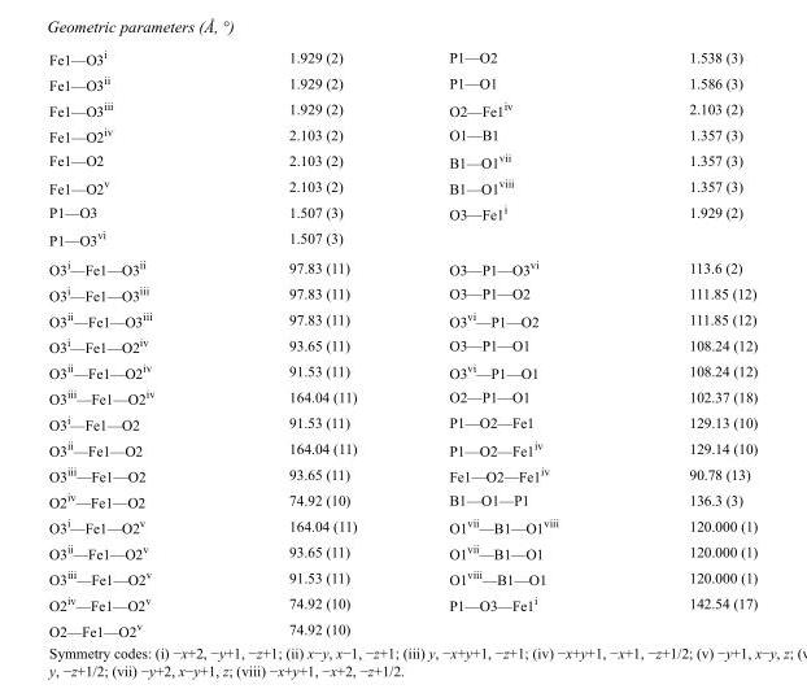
<table><tbody><tr><td>Fe1—O3<sup>i</sup></td><td>1.929 (2)</td><td>P1—O2</td><td>1.538 (3)</td></tr><tr><td>Fe1—O3<sup>ii</sup></td><td>1.929 (2)</td><td>P1—O1</td><td>1.586 (3)</td></tr><tr><td>Fe1—O3<sup>iii</sup></td><td>1.929 (2)</td><td>O2—Fe1<sup>iv</sup></td><td>2.103 (2)</td></tr><tr><td>Fe1—O2<sup>iv</sup></td><td>2.103 (2)</td><td>O1—B1</td><td>1.357 (3)</td></tr><tr><td>Fe1—O2</td><td>2.103 (2)</td><td>B1—O1<sup>vii</sup></td><td>1.357 (3)</td></tr><tr><td>Fe1—O2<sup>v</sup></td><td>2.103 (2)</td><td>B1—O1<sup>viii</sup></td><td>1.357 (3)</td></tr><tr><td>P1—O3</td><td>1.507 (3)</td><td>O3—Fe1<sup>i</sup></td><td>1.929 (2)</td></tr><tr><td>P1—O3<sup>vi</sup></td><td>1.507 (3)</td><td></td><td></td></tr><tr><td>O3<sup>i</sup>—Fe1—O3<sup>ii</sup></td><td>97.83 (11)</td><td>O3—P1—O3<sup>vi</sup></td><td>113.6 (2)</td></tr><tr><td>O3<sup>i</sup>—Fe1—O3<sup>iii</sup></td><td>97.83 (11)</td><td>O3—P1—O2</td><td>111.85 (12)</td></tr><tr><td>O3<sup>ii</sup>—Fe1—O3<sup>iii</sup></td><td>97.83 (11)</td><td>O3<sup>vi</sup>—P1—O2</td><td>111.85 (12)</td></tr><tr><td>O3<sup>i</sup>—Fe1—O2<sup>iv</sup></td><td>93.65 (11)</td><td>O3—P1—O1</td><td>108.24 (12)</td></tr><tr><td>O3<sup>ii</sup>—Fe1—O2<sup>iv</sup></td><td>91.53 (11)</td><td>O3<sup>vi</sup>—P1—O1</td><td>108.24 (12)</td></tr><tr><td>O3<sup>iii</sup>—Fe1—O2<sup>iv</sup></td><td>164.04 (11)</td><td>O2—P1—O1</td><td>102.37 (18)</td></tr><tr><td>O3<sup>i</sup>—Fe1—O2</td><td>91.53 (11)</td><td>P1—O2—Fe1</td><td>129.13 (10)</td></tr><tr><td>O3<sup>ii</sup>—Fe1—O2</td><td>164.04 (11)</td><td>P1—O2—Fe1<sup>iv</sup></td><td>129.14 (10)</td></tr><tr><td>O3<sup>iii</sup>—Fe1—O2</td><td>93.65 (11)</td><td>Fe1—O2—Fe1<sup>iv</sup></td><td>90.78 (13)</td></tr><tr><td>O2<sup>iv</sup>—Fe1—O2</td><td>74.92 (10)</td><td>B1—O1—P1</td><td>136.3 (3)</td></tr><tr><td>O3<sup>i</sup>—Fe1—O2<sup>v</sup></td><td>164.04 (11)</td><td>O1<sup>vii</sup>—B1—O1<sup>viii</sup></td><td>120.000 (1)</td></tr><tr><td>O3<sup>ii</sup>—Fe1—O2<sup>v</sup></td><td>93.65 (11)</td><td>O1<sup>vii</sup>—B1—O1</td><td>120.000 (1)</td></tr><tr><td>O3<sup>iii</sup>—Fe1—O2<sup>v</sup></td><td>91.53 (11)</td><td>O1<sup>viii</sup>—B1—O1</td><td>120.000 (1)</td></tr><tr><td>O2<sup>iv</sup>—Fe1—O2<sup>v</sup></td><td>74.92 (10)</td><td>P1—O3—Fe1<sup>i</sup></td><td>142.54 (17)</td></tr><tr><td>O2—Fe1—O2<sup>v</sup></td><td>74.92 (10)</td><td></td><td></td></tr></tbody></table>